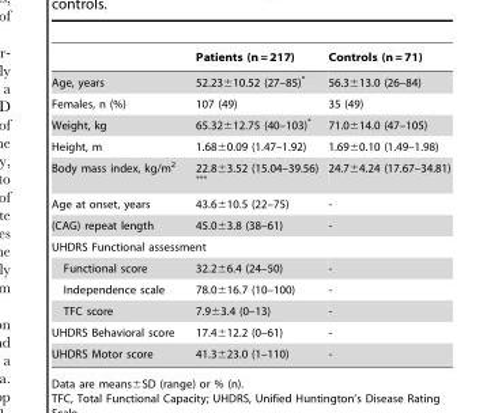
<table><thead><tr><td></td><td>Patients (n = 217)</td><td>Controls (n = 71)</td></tr></thead><tbody><tr><td>Age, years</td><td>52.23±10.52 (27–85)*</td><td>56.3±13.0 (26–84)</td></tr><tr><td>Females, n (%)</td><td>107 (49)</td><td>35 (49)</td></tr><tr><td>Weight, kg</td><td>65.32±12.75 (40–103)*</td><td>71.0±14.0 (47–105)</td></tr><tr><td>Height, m</td><td>1.68±0.09 (1.47–1.92)</td><td>1.69±0.10 (1.49–1.98)</td></tr><tr><td>Body mass index, kg/m<sup>2</sup></td><td>22.8±3.52 (15.04–39.56) ***</td><td>24.7±4.24 (17.67–34.81)</td></tr><tr><td>Age at onset, years</td><td>43.6±10.5 (22–75)</td><td>-</td></tr><tr><td>(CAG) repeat length</td><td>45.0±3.8 (38–61)</td><td>-</td></tr><tr><td colspan="3">UHDRS Functional assessment</td></tr><tr><td>Functional score</td><td>32.2±6.4 (24–50)</td><td>-</td></tr><tr><td>Independence scale</td><td>78.0±16.7 (10–100)</td><td>-</td></tr><tr><td>TFC score</td><td>7.9±3.4 (0–13)</td><td>-</td></tr><tr><td>UHDRS Behavioral score</td><td>17.4±12.2 (0–61)</td><td>-</td></tr><tr><td>UHDRS Motor score</td><td>41.3±23.0 (1–110)</td><td>-</td></tr></tbody></table>